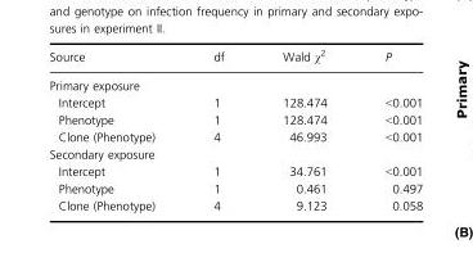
<table><thead><tr><td>Source</td><td>df</td><td>Wald χ<sup>2</sup></td><td>P</td></tr></thead><tbody><tr><td colspan="4">Primary exposure</td></tr><tr><td>Intercept</td><td>1</td><td>128.474</td><td>&lt;0.001</td></tr><tr><td>Phenotype</td><td>1</td><td>128.474</td><td>&lt;0.001</td></tr><tr><td>Clone (Phenotype)</td><td>4</td><td>46.993</td><td>&lt;0.001</td></tr><tr><td colspan="4">Secondary exposure</td></tr><tr><td>Intercept</td><td>1</td><td>34.761</td><td>&lt;0.001</td></tr><tr><td>Phenotype</td><td>1</td><td>0.461</td><td>0.497</td></tr><tr><td>Clone (Phenotype)</td><td>4</td><td>9.123</td><td>0.058</td></tr></tbody></table>